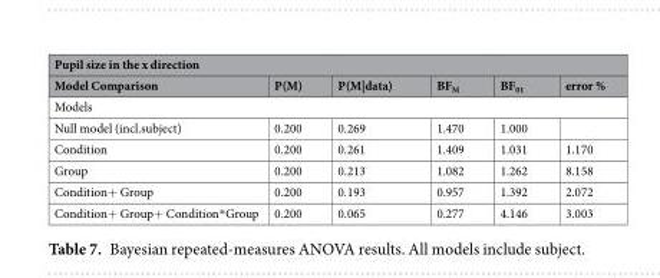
<table><thead><tr><td colspan="6">Pupil size in the x direction</td></tr><tr><td>Model Comparison</td><td>P(M)</td><td>P(M|data)</td><td>BF<sub>M</sub></td><td>BF<sub>01</sub></td><td>error %</td></tr></thead><tbody><tr><td colspan="6">Models</td></tr><tr><td>Null model (incl.subject)</td><td>0.200</td><td>0.269</td><td>1.470</td><td>1.000</td><td></td></tr><tr><td>Condition</td><td>0.200</td><td>0.261</td><td>1.409</td><td>1.031</td><td>1.170</td></tr><tr><td>Group</td><td>0.200</td><td>0.213</td><td>1.082</td><td>1.262</td><td>8.158</td></tr><tr><td>Condition+ Group</td><td>0.200</td><td>0.193</td><td>0.957</td><td>1.392</td><td>2.072</td></tr><tr><td>Condition+ Group+ Condition*Group</td><td>0.200</td><td>0.065</td><td>0.277</td><td>4.146</td><td>3.003</td></tr></tbody></table>